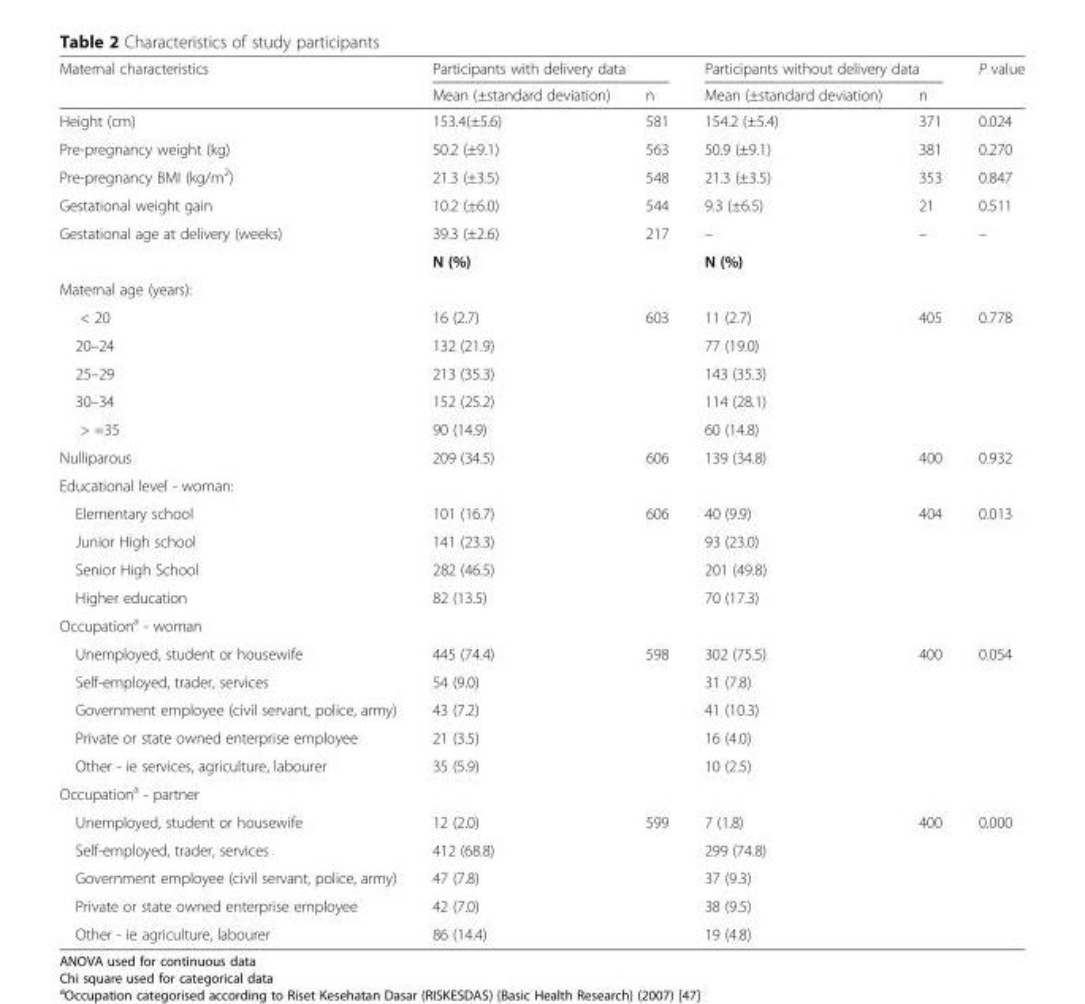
<table><thead><tr><td rowspan="2">Maternal characteristics</td><td colspan="2">Participants with delivery data</td><td colspan="2">Participants without delivery data</td><td rowspan="2">P value</td></tr><tr><td>Mean (±standard deviation)</td><td>n</td><td>Mean (±standard deviation)</td><td>n</td></tr></thead><tbody><tr><td>Height (cm)</td><td>153.4(±5.6)</td><td>581</td><td>154.2 (±5.4)</td><td>371</td><td>0.024</td></tr><tr><td>Pre-pregnancy weight (kg)</td><td>50.2 (±9.1)</td><td>563</td><td>50.9 (±9.1)</td><td>381</td><td>0.270</td></tr><tr><td>Pre-pregnancy BMI (kg/m<sup>2</sup>)</td><td>21.3 (±3.5)</td><td>548</td><td>21.3 (±3.5)</td><td>353</td><td>0.847</td></tr><tr><td>Gestational weight gain</td><td>10.2 (±6.0)</td><td>544</td><td>9.3 (±6.5)</td><td>21</td><td>0.511</td></tr><tr><td rowspan="2">Gestational age at delivery (weeks)</td><td>39.3 (±2.6)</td><td>217</td><td>–</td><td>–</td><td>–</td></tr><tr><td>N (%)</td><td></td><td>N (%)</td><td></td><td></td></tr><tr><td colspan="6">Maternal age (years):</td></tr><tr><td>&lt; 20</td><td>16 (2.7)</td><td>603</td><td>11 (2.7)</td><td>405</td><td>0.778</td></tr><tr><td>20–24</td><td>132 (21.9)</td><td></td><td>77 (19.0)</td><td></td><td></td></tr><tr><td>25–29</td><td>213 (35.3)</td><td></td><td>143 (35.3)</td><td></td><td></td></tr><tr><td>30–34</td><td>152 (25.2)</td><td></td><td>114 (28.1)</td><td></td><td></td></tr><tr><td>&gt; =35</td><td>90 (14.9)</td><td></td><td>60 (14.8)</td><td></td><td></td></tr><tr><td>Nulliparous</td><td>209 (34.5)</td><td>606</td><td>139 (34.8)</td><td>400</td><td>0.932</td></tr><tr><td colspan="6">Educational level - woman:</td></tr><tr><td>Elementary school</td><td>101 (16.7)</td><td>606</td><td>40 (9.9)</td><td>404</td><td>0.013</td></tr><tr><td>Junior High school</td><td>141 (23.3)</td><td></td><td>93 (23.0)</td><td></td><td></td></tr><tr><td>Senior High School</td><td>282 (46.5)</td><td></td><td>201 (49.8)</td><td></td><td></td></tr><tr><td>Higher education</td><td>82 (13.5)</td><td></td><td>70 (17.3)</td><td></td><td></td></tr><tr><td colspan="6">Occupation<sup>a</sup> - woman</td></tr><tr><td>Unemployed, student or housewife</td><td>445 (74.4)</td><td>598</td><td>302 (75.5)</td><td>400</td><td>0.054</td></tr><tr><td>Self-employed, trader, services</td><td>54 (9.0)</td><td></td><td>31 (7.8)</td><td></td><td></td></tr><tr><td>Government employee (civil servant, police, army)</td><td>43 (7.2)</td><td></td><td>41 (10.3)</td><td></td><td></td></tr><tr><td>Private or state owned enterprise employee</td><td>21 (3.5)</td><td></td><td>16 (4.0)</td><td></td><td></td></tr><tr><td>Other - ie services, agriculture, labourer</td><td>35 (5.9)</td><td></td><td>10 (2.5)</td><td></td><td></td></tr><tr><td colspan="6">Occupation<sup>a</sup> - partner</td></tr><tr><td>Unemployed, student or housewife</td><td>12 (2.0)</td><td>599</td><td>7 (1.8)</td><td>400</td><td>0.000</td></tr><tr><td>Self-employed, trader, services</td><td>412 (68.8)</td><td></td><td>299 (74.8)</td><td></td><td></td></tr><tr><td>Government employee (civil servant, police, army)</td><td>47 (7.8)</td><td></td><td>37 (9.3)</td><td></td><td></td></tr><tr><td>Private or state owned enterprise employee</td><td>42 (7.0)</td><td></td><td>38 (9.5)</td><td></td><td></td></tr><tr><td>Other - ie agriculture, labourer</td><td>86 (14.4)</td><td></td><td>19 (4.8)</td><td></td><td></td></tr></tbody></table>